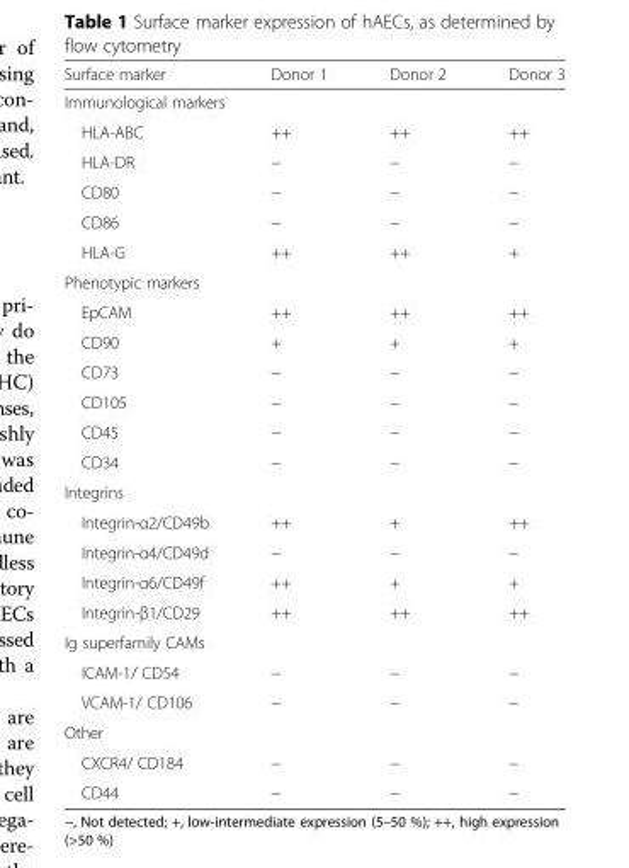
<table><thead><tr><td>Surface marker</td><td>Donor 1</td><td>Donor 2</td><td>Donor 3</td></tr></thead><tbody><tr><td colspan="4">Immunological markers</td></tr><tr><td>HLA-ABC</td><td>++</td><td>++</td><td>++</td></tr><tr><td>HLA-DR</td><td>−</td><td>−</td><td>−</td></tr><tr><td>CD80</td><td>−</td><td>−</td><td>−</td></tr><tr><td>CD86</td><td>−</td><td>−</td><td>−</td></tr><tr><td>HLA-G</td><td>++</td><td>++</td><td>+</td></tr><tr><td colspan="4">Phenotypic markers</td></tr><tr><td>EpCAM</td><td>++</td><td>++</td><td>++</td></tr><tr><td>CD90</td><td>+</td><td>+</td><td>+</td></tr><tr><td>CD73</td><td>−</td><td>−</td><td>−</td></tr><tr><td>CD105</td><td>−</td><td>−</td><td>−</td></tr><tr><td>CD45</td><td>−</td><td>−</td><td>−</td></tr><tr><td>CD34</td><td>−</td><td>−</td><td>−</td></tr><tr><td colspan="4">Integrins</td></tr><tr><td>Integrin-α2/CD49b</td><td>++</td><td>+</td><td>++</td></tr><tr><td>Integrin-α4/CD49d</td><td>−</td><td>−</td><td>−</td></tr><tr><td>Integrin-α6/CD49f</td><td>++</td><td>+</td><td>+</td></tr><tr><td>Integrin-β1/CD29</td><td>++</td><td>++</td><td>++</td></tr><tr><td colspan="4">Ig superfamily CAMs</td></tr><tr><td>ICAM-1/ CD54</td><td>−</td><td>−</td><td>−</td></tr><tr><td>VCAM-1/ CD106</td><td>−</td><td>−</td><td>−</td></tr><tr><td colspan="4">Other</td></tr><tr><td>CXCR4/ CD184</td><td>−</td><td>−</td><td>−</td></tr><tr><td>CD44</td><td>−</td><td>−</td><td>−</td></tr></tbody></table>